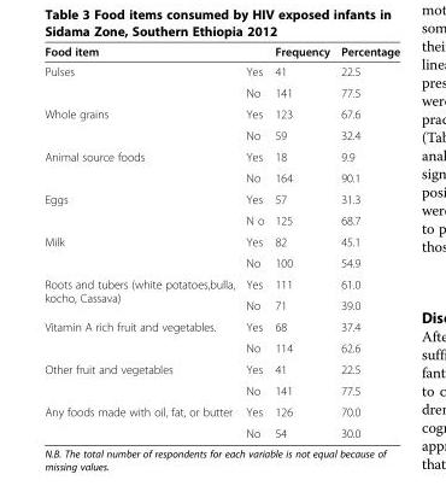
<table><thead><tr><td>Food item</td><td></td><td>Frequency</td><td>Percentage</td></tr></thead><tbody><tr><td rowspan="2">Pulses</td><td>Yes</td><td>41</td><td>22.5</td></tr><tr><td>No</td><td>141</td><td>77.5</td></tr><tr><td rowspan="2">Whole grains</td><td>Yes</td><td>123</td><td>67.6</td></tr><tr><td>No</td><td>59</td><td>32.4</td></tr><tr><td rowspan="2">Animal source foods</td><td>Yes</td><td>18</td><td>9.9</td></tr><tr><td>No</td><td>164</td><td>90.1</td></tr><tr><td rowspan="2">Eggs</td><td>Yes</td><td>57</td><td>31.3</td></tr><tr><td>N o</td><td>125</td><td>68.7</td></tr><tr><td rowspan="2">Milk</td><td>Yes</td><td>82</td><td>45.1</td></tr><tr><td>No</td><td>100</td><td>54.9</td></tr><tr><td rowspan="2">Roots and tubers (white potatoes,bulla, kocho, Cassava)</td><td>Yes</td><td>111</td><td>61.0</td></tr><tr><td>No</td><td>71</td><td>39.0</td></tr><tr><td rowspan="2">Vitamin A rich fruit and vegetables.</td><td>Yes</td><td>68</td><td>37.4</td></tr><tr><td>No</td><td>114</td><td>62.6</td></tr><tr><td rowspan="2">Other fruit and vegetables</td><td>Yes</td><td>41</td><td>22.5</td></tr><tr><td>No</td><td>141</td><td>77.5</td></tr><tr><td rowspan="2">Any foods made with oil, fat, or butter</td><td>Yes</td><td>126</td><td>70.0</td></tr><tr><td>No</td><td>54</td><td>30.0</td></tr></tbody></table>